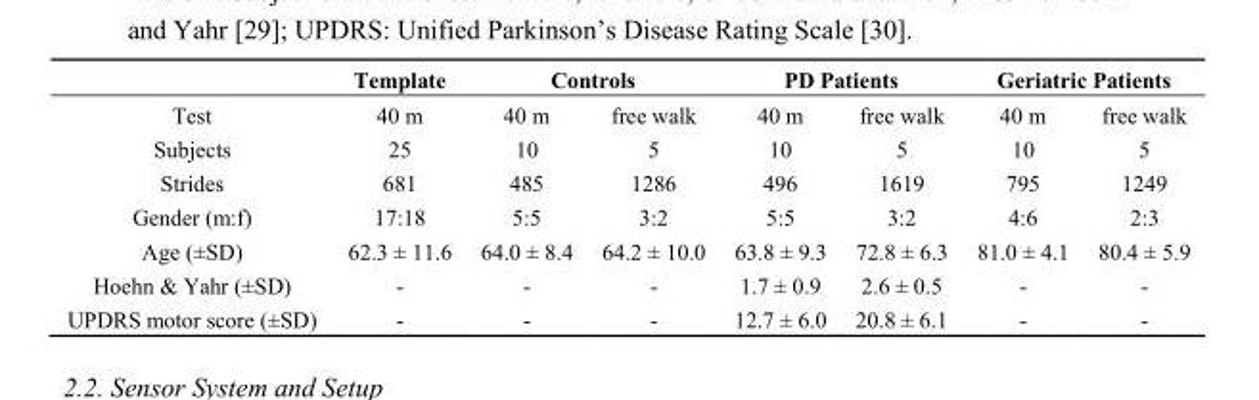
<table><thead><tr><td rowspan="2">Test</td><td rowspan="2">Template 40 m</td><td colspan="2">Controls</td><td colspan="2">PD Patients</td><td colspan="2">Geriatric Patients</td></tr><tr><td>40 m</td><td>free walk</td><td>40 m</td><td>free walk</td><td>40 m</td><td>free walk</td></tr></thead><tbody><tr><td>Subjects</td><td>25</td><td>10</td><td>5</td><td>10</td><td>5</td><td>10</td><td>5</td></tr><tr><td>Strides</td><td>681</td><td>485</td><td>1286</td><td>496</td><td>1619</td><td>795</td><td>1249</td></tr><tr><td>Gender (m:f)</td><td>17:18</td><td>5:5</td><td>3:2</td><td>5:5</td><td>3:2</td><td>4:6</td><td>2:3</td></tr><tr><td>Age (±SD)</td><td>62.3 ± 11.6</td><td>64.0 ± 8.4</td><td>64.2 ± 10.0</td><td>63.8 ± 9.3</td><td>72.8 ± 6.3</td><td>81.0 ± 4.1</td><td>80.4 ± 5.9</td></tr><tr><td>Hoehn &amp; Yahr (±SD)</td><td>-</td><td>-</td><td>-</td><td>1.7 ± 0.9</td><td>2.6 ± 0.5</td><td>-</td><td>-</td></tr><tr><td>UPDRS motor score (±SD)</td><td>-</td><td>-</td><td>-</td><td>12.7 ± 6.0</td><td>20.8 ± 6.1</td><td>-</td><td>-</td></tr></tbody></table>